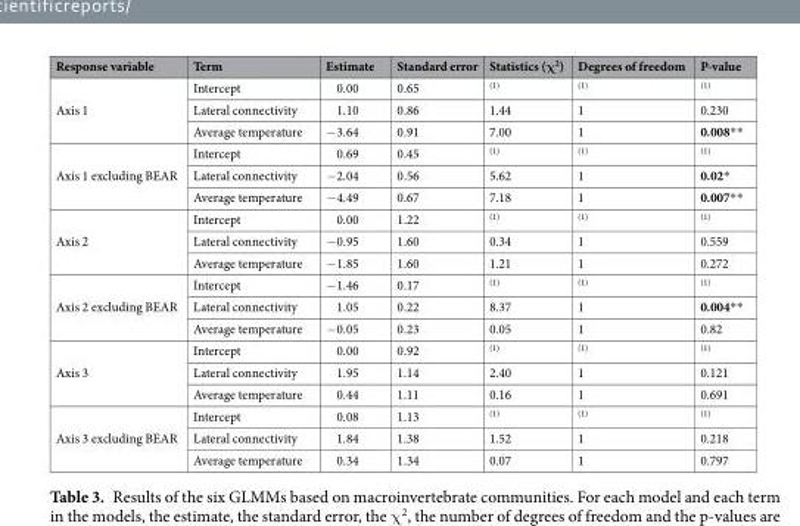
<table><thead><tr><td>Response variable</td><td>Term</td><td>Estimate</td><td>Standard error</td><td>Statistics (χ<sup>2</sup>)</td><td>Degrees of freedom</td><td>P-value</td></tr></thead><tbody><tr><td rowspan="3">Axis 1</td><td>Intercept</td><td>0.00</td><td>0.65</td><td><sup>(1)</sup></td><td><sup>(1)</sup></td><td><sup>(1)</sup></td></tr><tr><td>Lateral connectivity</td><td>1.10</td><td>0.86</td><td>1.44</td><td>1</td><td>0.230</td></tr><tr><td>Average temperature</td><td>−3.64</td><td>0.91</td><td>7.00</td><td>1</td><td>0.008**</td></tr><tr><td rowspan="3">Axis 1 excluding BEAR</td><td>Intercept</td><td>0.69</td><td>0.45</td><td><sup>(1)</sup></td><td><sup>(1)</sup></td><td><sup>(1)</sup></td></tr><tr><td>Lateral connectivity</td><td>−2.04</td><td>0.56</td><td>5.62</td><td>1</td><td>0.02*</td></tr><tr><td>Average temperature</td><td>−4.49</td><td>0.67</td><td>7.18</td><td>1</td><td>0.007**</td></tr><tr><td rowspan="3">Axis 2</td><td>Intercept</td><td>0.00</td><td>1.22</td><td><sup>(1)</sup></td><td><sup>(1)</sup></td><td><sup>(1)</sup></td></tr><tr><td>Lateral connectivity</td><td>−0.95</td><td>1.60</td><td>0.34</td><td>1</td><td>0.559</td></tr><tr><td>Average temperature</td><td>−1.85</td><td>1.60</td><td>1.21</td><td>1</td><td>0.272</td></tr><tr><td rowspan="3">Axis 2 excluding BEAR</td><td>Intercept</td><td>−1.46</td><td>0.17</td><td><sup>(1)</sup></td><td><sup>(1)</sup></td><td><sup>(1)</sup></td></tr><tr><td>Lateral connectivity</td><td>1.05</td><td>0.22</td><td>8.37</td><td>1</td><td>0.004**</td></tr><tr><td>Average temperature</td><td>−0.05</td><td>0.23</td><td>0.05</td><td>1</td><td>0.82</td></tr><tr><td rowspan="3">Axis 3</td><td>Intercept</td><td>0.00</td><td>0.92</td><td><sup>(1)</sup></td><td><sup>(1)</sup></td><td><sup>(1)</sup></td></tr><tr><td>Lateral connectivity</td><td>1.95</td><td>1.14</td><td>2.40</td><td>1</td><td>0.121</td></tr><tr><td>Average temperature</td><td>0.44</td><td>1.11</td><td>0.16</td><td>1</td><td>0.691</td></tr><tr><td rowspan="3">Axis 3 excluding BEAR</td><td>Intercept</td><td>0.08</td><td>1.13</td><td><sup>(1)</sup></td><td><sup>(1)</sup></td><td><sup>(1)</sup></td></tr><tr><td>Lateral connectivity</td><td>1.84</td><td>1.38</td><td>1.52</td><td>1</td><td>0.218</td></tr><tr><td>Average temperature</td><td>0.34</td><td>1.34</td><td>0.07</td><td>1</td><td>0.797</td></tr></tbody></table>